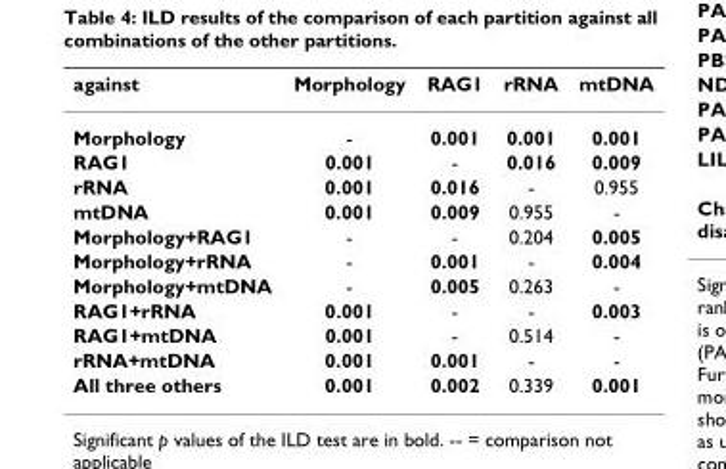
<table><thead><tr><td>against</td><td>Morphology</td><td>RAG1</td><td>rRNA</td><td>mtDNA</td></tr></thead><tbody><tr><td>Morphology</td><td>-</td><td>0.001</td><td>0.001</td><td>0.001</td></tr><tr><td>RAG1</td><td>0.001</td><td>-</td><td>0.016</td><td>0.009</td></tr><tr><td>rRNA</td><td>0.001</td><td>0.016</td><td>-</td><td>0.955</td></tr><tr><td>mtDNA</td><td>0.001</td><td>0.009</td><td>0.955</td><td>-</td></tr><tr><td>Morphology+RAG1</td><td>-</td><td>-</td><td>0.204</td><td>0.005</td></tr><tr><td>Morphology+rRNA</td><td>-</td><td>0.001</td><td>-</td><td>0.004</td></tr><tr><td>Morphology+mtDNA</td><td>-</td><td>0.005</td><td>0.263</td><td>-</td></tr><tr><td>RAG1+rRNA</td><td>0.001</td><td>-</td><td>-</td><td>0.003</td></tr><tr><td>RAG1+mtDNA</td><td>0.001</td><td>-</td><td>0.514</td><td>-</td></tr><tr><td>rRNA+mtDNA</td><td>0.001</td><td>0.001</td><td>-</td><td>-</td></tr><tr><td>All three others</td><td>0.001</td><td>0.002</td><td>0.339</td><td>0.001</td></tr></tbody></table>